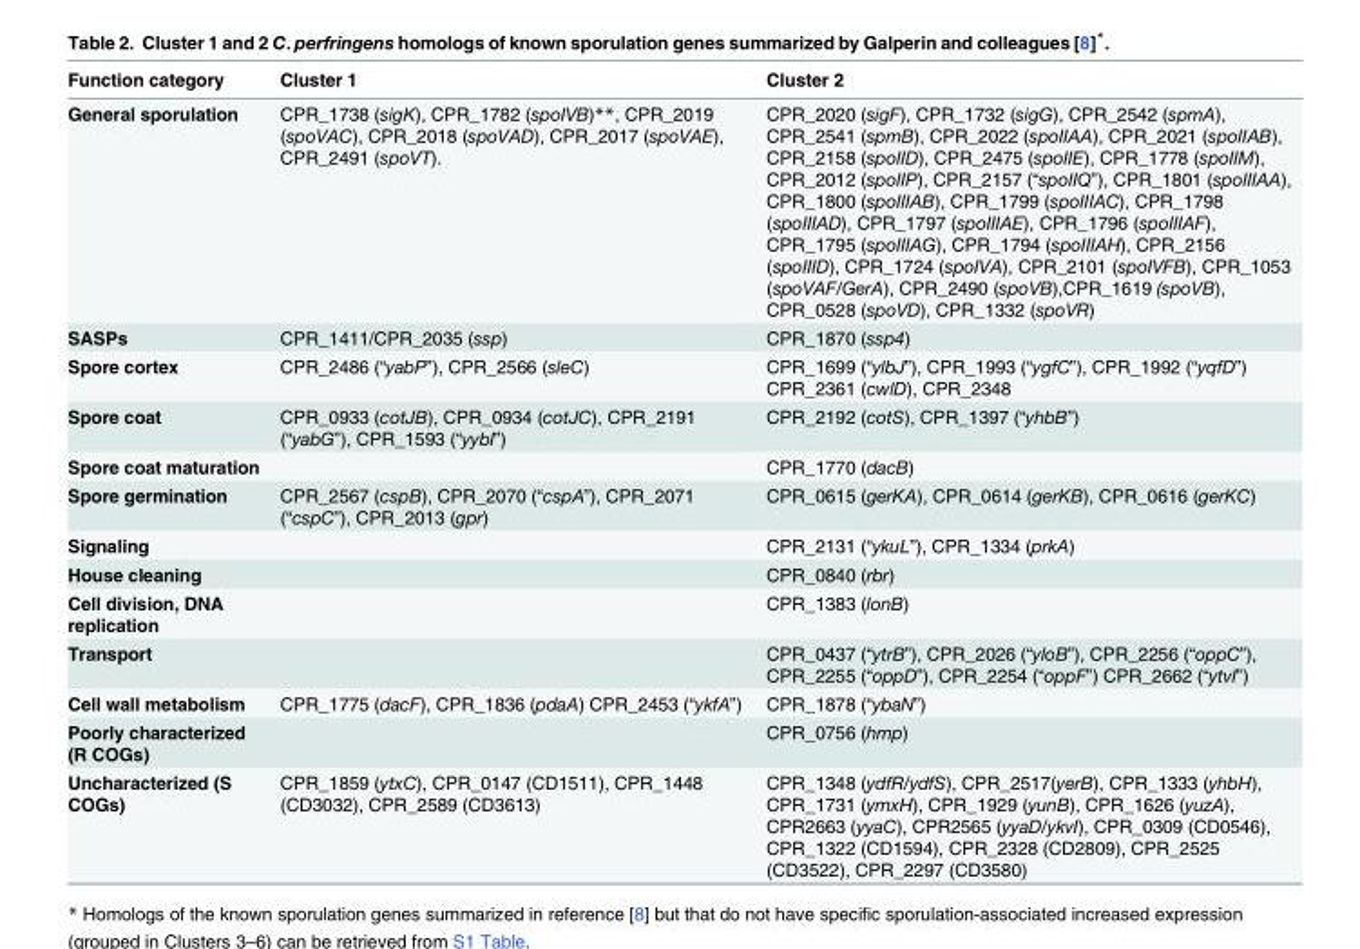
<table><thead><tr><td>Function category</td><td>Cluster 1</td><td>Cluster 2</td></tr></thead><tbody><tr><td>General sporulation</td><td>CPR_1738 (sigK), CPR_1782 (spoIVB)**, CPR_2019 (spoVAC), CPR_2018 (spoVAD), CPR_2017 (spoVAE), CPR_2491 (spoVT).</td><td>CPR_2020 (sigF), CPR_1732 (sigG), CPR_2542 (spmA), CPR_2541 (spmB), CPR_2022 (spoIIAA), CPR_2021 (spoIIAB), CPR_2158 (spoIID), CPR_2475 (spoIIE), CPR_1778 (spoIIM), CPR_2012 (spoIIP), CPR_2157 (“spoIIQ”), CPR_1801 (spoIIIAA), CPR_1800 (spoIIIAB), CPR_1799 (spoIIIAC), CPR_1798 (spoIIIAD), CPR_1797 (spoIIIAE), CPR_1796 (spoIIIAF), CPR_1795 (spoIIIAG), CPR_1794 (spoIIIAH), CPR_2156 (spoIIID), CPR_1724 (spoIVA), CPR_2101 (spoIVFB), CPR_1053 (spoVAF/GerA), CPR_2490 (spoVB),CPR_1619 (spoVB), CPR_0528 (spoVD), CPR_1332 (spoVR)</td></tr><tr><td>SASPs</td><td>CPR_1411/CPR_2035 (ssp)</td><td>CPR_1870 (ssp4)</td></tr><tr><td>Spore cortex</td><td>CPR_2486 (“yabP”), CPR_2566 (sleC)</td><td>CPR_1699 (“ylbJ”), CPR_1993 (“ygfC”), CPR_1992 (“yqfD”) CPR_2361 (cwlD), CPR_2348</td></tr><tr><td>Spore coat</td><td>CPR_0933 (cotJB), CPR_0934 (cotJC), CPR_2191 (“yabG”), CPR_1593 (“yybI”)</td><td>CPR_2192 (cotS), CPR_1397 (“yhbB”)</td></tr><tr><td>Spore coat maturation</td><td></td><td>CPR_1770 (dacB)</td></tr><tr><td>Spore germination</td><td>CPR_2567 (cspB), CPR_2070 (“cspA”), CPR_2071 (“cspC”), CPR_2013 (gpr)</td><td>CPR_0615 (gerKA), CPR_0614 (gerKB), CPR_0616 (gerKC)</td></tr><tr><td>Signaling</td><td></td><td>CPR_2131 (“ykuL”), CPR_1334 (prkA)</td></tr><tr><td>House cleaning</td><td></td><td>CPR_0840 (rbr)</td></tr><tr><td>Cell division, DNA replication</td><td></td><td>CPR_1383 (lonB)</td></tr><tr><td>Transport</td><td></td><td>CPR_0437 (“ytrB”), CPR_2026 (“yloB”), CPR_2256 (“oppC”), CPR_2255 (“oppD”), CPR_2254 (“oppF”) CPR_2662 (“ytvI”)</td></tr><tr><td>Cell wall metabolism</td><td>CPR_1775 (dacF), CPR_1836 (pdaA) CPR_2453 (“ykfA”)</td><td>CPR_1878 (“ybaN”)</td></tr><tr><td>Poorly characterized (R COGs)</td><td></td><td>CPR_0756 (hmp)</td></tr><tr><td>Uncharacterized (S COGs)</td><td>CPR_1859 (ytxC), CPR_0147 (CD1511), CPR_1448 (CD3032), CPR_2589 (CD3613)</td><td>CPR_1348 (ydfR/ydfS), CPR_2517(yerB), CPR_1333 (yhbH), CPR_1731 (ymxH), CPR_1929 (yunB), CPR_1626 (yuzA), CPR2663 (yyaC), CPR2565 (yyaD/ykvI), CPR_0309 (CD0546), CPR_1322 (CD1594), CPR_2328 (CD2809), CPR_2525 (CD3522), CPR_2297 (CD3580)</td></tr></tbody></table>